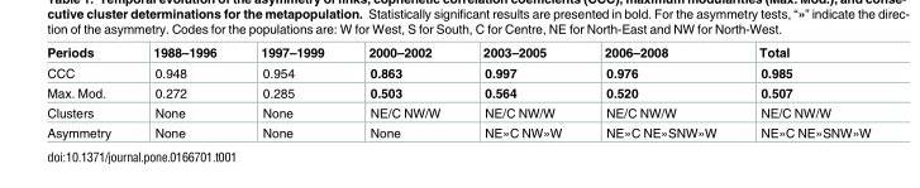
<table><thead><tr><td>Periods</td><td>1988–1996</td><td>1997–1999</td><td>2000–2002</td><td>2003–2005</td><td>2006–2008</td><td>Total</td></tr></thead><tbody><tr><td>CCC</td><td>0.948</td><td>0.954</td><td>0.863</td><td>0.997</td><td>0.976</td><td>0.985</td></tr><tr><td>Max. Mod.</td><td>0.272</td><td>0.285</td><td>0.503</td><td>0.564</td><td>0.520</td><td>0.507</td></tr><tr><td>Clusters</td><td>None</td><td>None</td><td>NE/C NW/W</td><td>NE/C NW/W</td><td>NE/C NW/W</td><td>NE/C NW/W</td></tr><tr><td>Asymmetry</td><td>None</td><td>None</td><td>None</td><td>NE»C NW»W</td><td>NE»C NE»SNW»W</td><td>NE»C NE»SNW»W</td></tr></tbody></table>